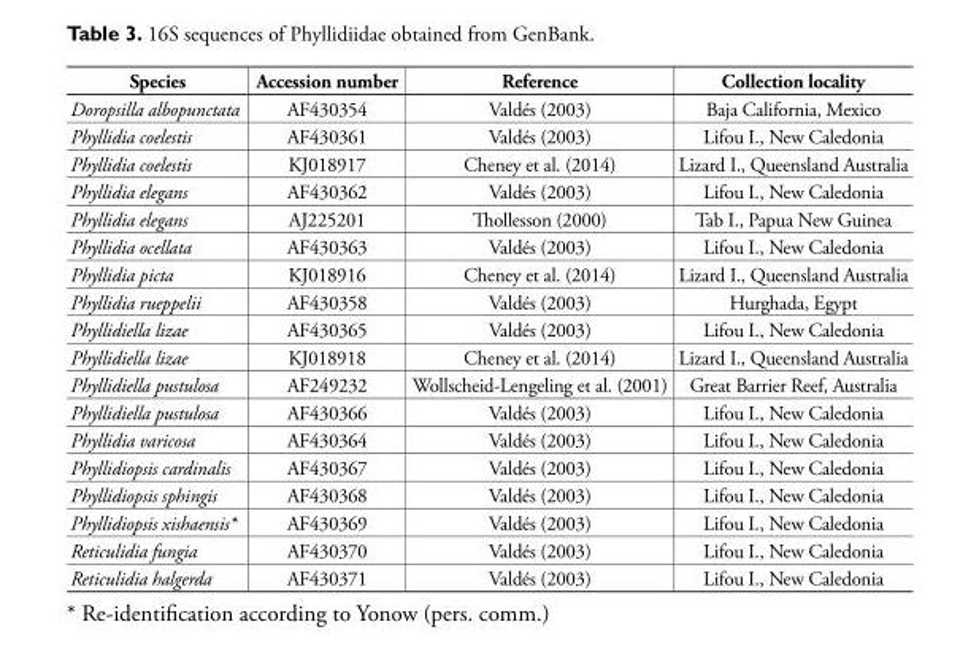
<table><thead><tr><td>Species</td><td>Accession number</td><td>Reference</td><td>Collection locality</td></tr></thead><tbody><tr><td>Doropsilla albopunctata</td><td>AF430354</td><td>Valdés (2003)</td><td>Baja California, Mexico</td></tr><tr><td>Phyllidia coelestis</td><td>AF430361</td><td>Valdés (2003)</td><td>Lifou I., New Caledonia</td></tr><tr><td>Phyllidia coelestis</td><td>KJ018917</td><td>Cheney et al. (2014)</td><td>Lizard I., Queensland Australia</td></tr><tr><td>Phyllidia elegans</td><td>AF430362</td><td>Valdés (2003)</td><td>Lifou I., New Caledonia</td></tr><tr><td>Phyllidia elegans</td><td>AJ225201</td><td>Thollesson (2000)</td><td>Tab I., Papua New Guinea</td></tr><tr><td>Phyllidia ocellata</td><td>AF430363</td><td>Valdés (2003)</td><td>Lifou I., New Caledonia</td></tr><tr><td>Phyllidia picta</td><td>KJ018916</td><td>Cheney et al. (2014)</td><td>Lizard I., Queensland Australia</td></tr><tr><td>Phyllidia rueppelii</td><td>AF430358</td><td>Valdés (2003)</td><td>Hurghada, Egypt</td></tr><tr><td>Phyllidiella lizae</td><td>AF430365</td><td>Valdés (2003)</td><td>Lifou I., New Caledonia</td></tr><tr><td>Phyllidiella lizae</td><td>KJ018918</td><td>Cheney et al. (2014)</td><td>Lizard I., Queensland Australia</td></tr><tr><td>Phyllidiella pustulosa</td><td>AF249232</td><td>Wollscheid-Lengeling et al. (2001)</td><td>Great Barrier Reef, Australia</td></tr><tr><td>Phyllidiella pustulosa</td><td>AF430366</td><td>Valdés (2003)</td><td>Lifou I., New Caledonia</td></tr><tr><td>Phyllidia varicosa</td><td>AF430364</td><td>Valdés (2003)</td><td>Lifou I., New Caledonia</td></tr><tr><td>Phyllidiopsis cardinalis</td><td>AF430367</td><td>Valdés (2003)</td><td>Lifou I., New Caledonia</td></tr><tr><td>Phyllidiopsis sphingis</td><td>AF430368</td><td>Valdés (2003)</td><td>Lifou I., New Caledonia</td></tr><tr><td>Phyllidiopsis xishaensis*</td><td>AF430369</td><td>Valdés (2003)</td><td>Lifou I., New Caledonia</td></tr><tr><td>Reticulidia fungia</td><td>AF430370</td><td>Valdés (2003)</td><td>Lifou I., New Caledonia</td></tr><tr><td>Reticulidia halgerda</td><td>AF430371</td><td>Valdés (2003)</td><td>Lifou I., New Caledonia</td></tr></tbody></table>